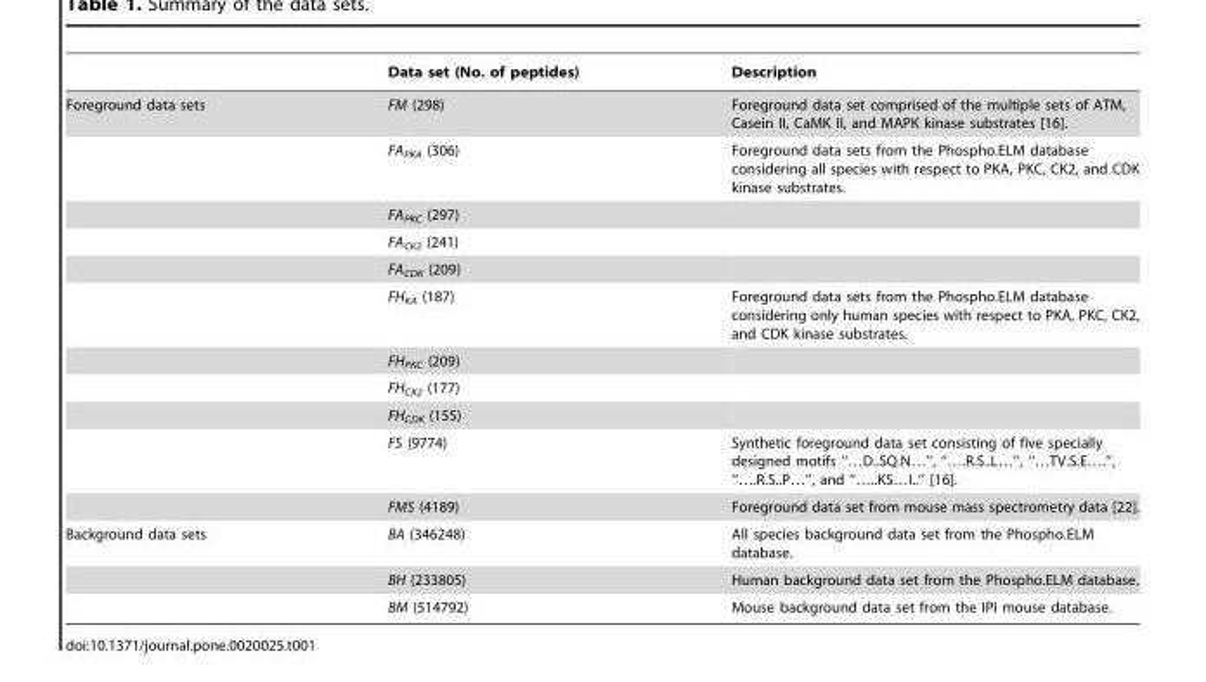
<table><thead><tr><td></td><td>Data set (No. of peptides)</td><td>Description</td></tr></thead><tbody><tr><td rowspan="11">Foreground data sets</td><td>FM (298)</td><td>Foreground data set comprised of the multiple sets of ATM, Casein II, CaMK II, and MAPK kinase substrates [16].</td></tr><tr><td>FA<sub>PKA</sub> (306)</td><td>Foreground data sets from the Phospho.ELM database considering all species with respect to PKA, PKC, CK2, and CDK kinase substrates.</td></tr><tr><td>FA<sub>PKC</sub> (297)</td><td></td></tr><tr><td>FA<sub>CK2</sub> (241)</td><td></td></tr><tr><td>FA<sub>CDK</sub> (209)</td><td></td></tr><tr><td>FH<sub>KA</sub> (187)</td><td>Foreground data sets from the Phospho.ELM database considering only human species with respect to PKA, PKC, CK2, and CDK kinase substrates.</td></tr><tr><td>FH<sub>PKC</sub> (209)</td><td></td></tr><tr><td>FH<sub>CK2</sub> (177)</td><td></td></tr><tr><td>FH<sub>CDK</sub> (155)</td><td></td></tr><tr><td>FS (9774)</td><td>Synthetic foreground data set consisting of five specially designed motifs ‘‘…D..SQ.N…’’, ‘‘….R.S..L…’’, ‘‘…TV.S.E….’’, ‘‘….R.S..P…’’, and ‘‘…..KS…I..’’ [16].</td></tr><tr><td>FMS (4189)</td><td>Foreground data set from mouse mass spectrometry data [22].</td></tr><tr><td rowspan="3">Background data sets</td><td>BA (346248)</td><td>All species background data set from the Phospho.ELM database.</td></tr><tr><td>BH (233805)</td><td>Human background data set from the Phospho.ELM database.</td></tr><tr><td>BM (514792)</td><td>Mouse background data set from the IPI mouse database.</td></tr></tbody></table>